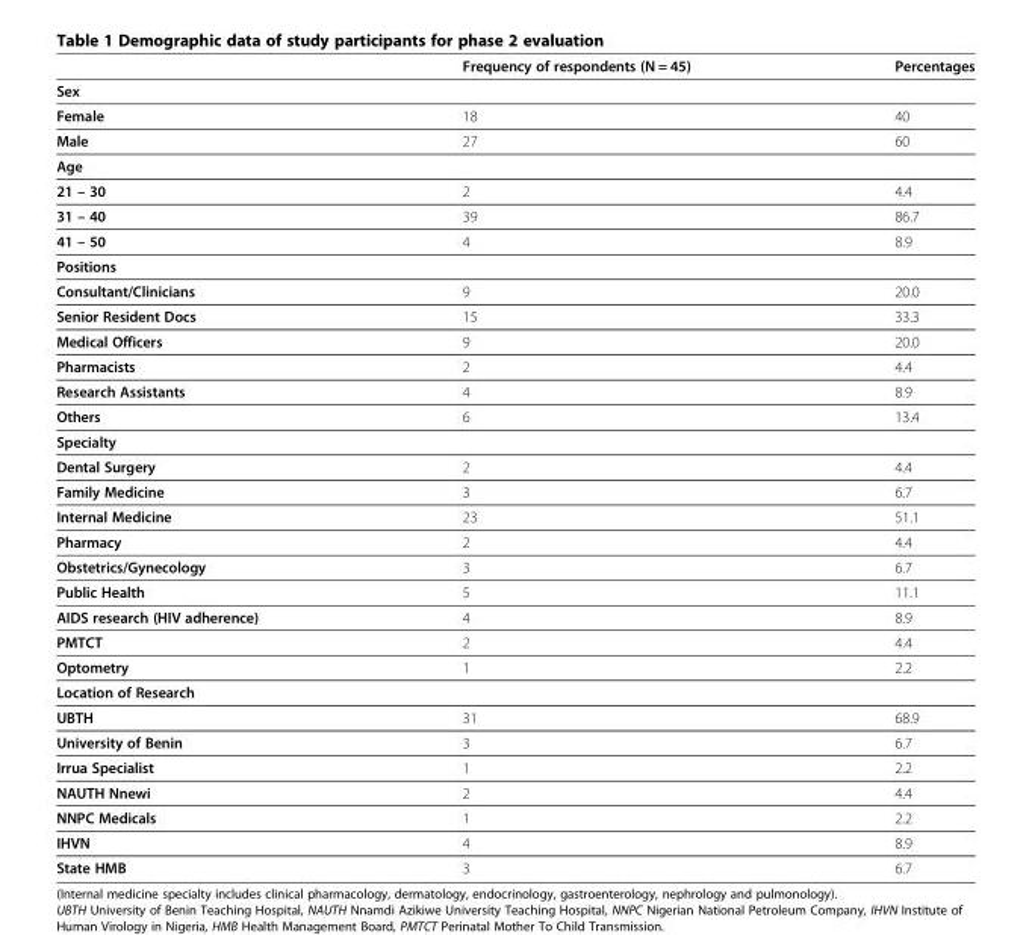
<table><thead><tr><td></td><td>Frequency of respondents (N = 45)</td><td>Percentages</td></tr></thead><tbody><tr><td colspan="3">Sex</td></tr><tr><td>Female</td><td>18</td><td>40</td></tr><tr><td>Male</td><td>27</td><td>60</td></tr><tr><td colspan="3">Age</td></tr><tr><td>21 – 30</td><td>2</td><td>4.4</td></tr><tr><td>31 – 40</td><td>39</td><td>86.7</td></tr><tr><td>41 – 50</td><td>4</td><td>8.9</td></tr><tr><td colspan="3">Positions</td></tr><tr><td>Consultant/Clinicians</td><td>9</td><td>20.0</td></tr><tr><td>Senior Resident Docs</td><td>15</td><td>33.3</td></tr><tr><td>Medical Officers</td><td>9</td><td>20.0</td></tr><tr><td>Pharmacists</td><td>2</td><td>4.4</td></tr><tr><td>Research Assistants</td><td>4</td><td>8.9</td></tr><tr><td>Others</td><td>6</td><td>13.4</td></tr><tr><td colspan="3">Specialty</td></tr><tr><td>Dental Surgery</td><td>2</td><td>4.4</td></tr><tr><td>Family Medicine</td><td>3</td><td>6.7</td></tr><tr><td>Internal Medicine</td><td>23</td><td>51.1</td></tr><tr><td>Pharmacy</td><td>2</td><td>4.4</td></tr><tr><td>Obstetrics/Gynecology</td><td>3</td><td>6.7</td></tr><tr><td>Public Health</td><td>5</td><td>11.1</td></tr><tr><td>AIDS research (HIV adherence)</td><td>4</td><td>8.9</td></tr><tr><td>PMTCT</td><td>2</td><td>4.4</td></tr><tr><td>Optometry</td><td>1</td><td>2.2</td></tr><tr><td colspan="3">Location of Research</td></tr><tr><td>UBTH</td><td>31</td><td>68.9</td></tr><tr><td>University of Benin</td><td>3</td><td>6.7</td></tr><tr><td>Irrua Specialist</td><td>1</td><td>2.2</td></tr><tr><td>NAUTH Nnewi</td><td>2</td><td>4.4</td></tr><tr><td>NNPC Medicals</td><td>1</td><td>2.2</td></tr><tr><td>IHVN</td><td>4</td><td>8.9</td></tr><tr><td>State HMB</td><td>3</td><td>6.7</td></tr></tbody></table>